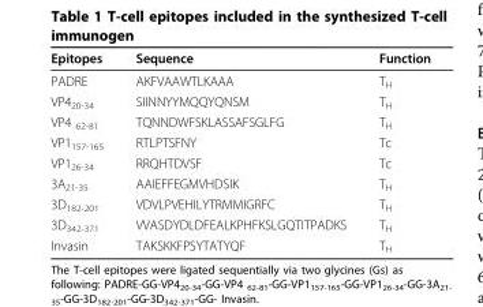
<table><thead><tr><td>Epitopes</td><td>Sequence</td><td>Function</td></tr></thead><tbody><tr><td>PADRE</td><td>AKFVAAWTLKAAA</td><td>T<sub>H</sub></td></tr><tr><td>VP4<sub>20-34</sub></td><td>SIINNYYMQQYQNSM</td><td>T<sub>H</sub></td></tr><tr><td>VP4 <sub>62-81</sub></td><td>TQNNDWFSKLASSAFSGLFG</td><td>T<sub>H</sub></td></tr><tr><td>VP1<sub>157-165</sub></td><td>RTLPTSFNY</td><td>Tc</td></tr><tr><td>VP1<sub>26-34</sub></td><td>RRQHTDVSF</td><td>Tc</td></tr><tr><td>3A<sub>21-35</sub></td><td>AAIEFFEGMVHDSIK</td><td>T<sub>H</sub></td></tr><tr><td>3D<sub>182-201</sub></td><td>VDVLPVEHILYTRMMIGRFC</td><td>T<sub>H</sub></td></tr><tr><td>3D<sub>342-371</sub></td><td>VVASDYDLDFEALKPHFKSLGQTITPADKS</td><td>T<sub>H</sub></td></tr><tr><td>Invasin</td><td>TAKSKKFPSYTATYQF</td><td>T<sub>H</sub></td></tr></tbody></table>